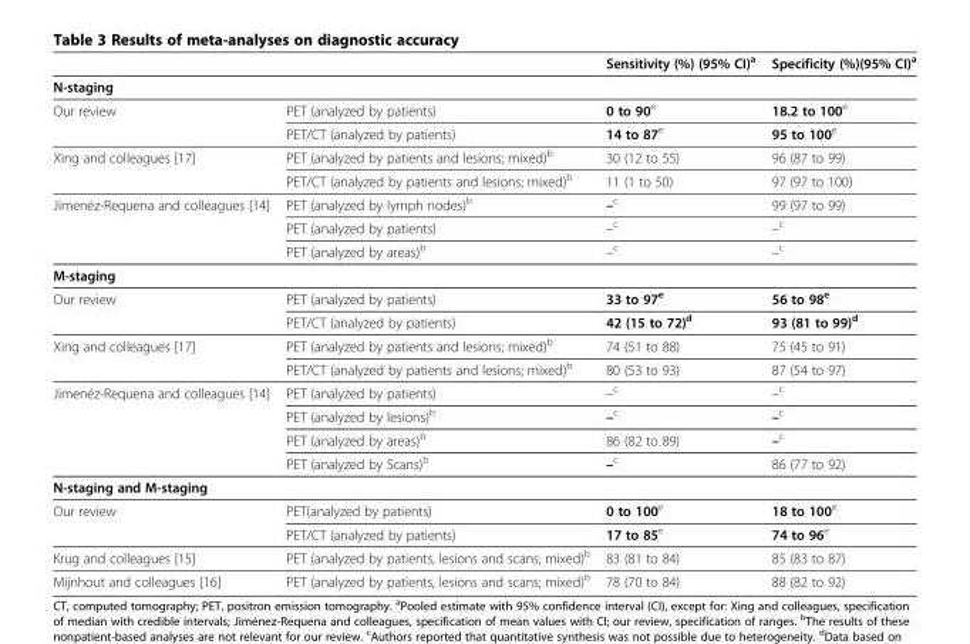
<table><thead><tr><td></td><td></td><td>Sensitivity (%) (95% CI)<sup>a</sup></td><td>Specificity (%)(95% CI)<sup>a</sup></td></tr></thead><tbody><tr><td colspan="4">N-staging</td></tr><tr><td rowspan="2">Our review</td><td>PET (analyzed by patients)</td><td>0 to 90<sup>e</sup></td><td>18.2 to 100<sup>e</sup></td></tr><tr><td>PET/CT (analyzed by patients)</td><td>14 to 87<sup>e</sup></td><td>95 to 100<sup>e</sup></td></tr><tr><td rowspan="2">Xing and colleagues [17]</td><td>PET (analyzed by patients and lesions; mixed)<sup>b</sup></td><td>30 (12 to 55)</td><td>96 (87 to 99)</td></tr><tr><td>PET/CT (analyzed by patients and lesions; mixed)<sup>b</sup></td><td>11 (1 to 50)</td><td>97 (97 to 100)</td></tr><tr><td rowspan="3">Jimenéz-Requena and colleagues [14]</td><td>PET (analyzed by lymph nodes)<sup>b</sup></td><td>–<sup>c</sup></td><td>99 (97 to 99)</td></tr><tr><td>PET (analyzed by patients)</td><td>–<sup>c</sup></td><td>–<sup>c</sup></td></tr><tr><td>PET (analyzed by areas)<sup>b</sup></td><td>–<sup>c</sup></td><td>–<sup>c</sup></td></tr><tr><td colspan="4">M-staging</td></tr><tr><td rowspan="2">Our review</td><td>PET (analyzed by patients)</td><td>33 to 97<sup>e</sup></td><td>56 to 98<sup>e</sup></td></tr><tr><td>PET/CT (analyzed by patients)</td><td>42 (15 to 72)<sup>d</sup></td><td>93 (81 to 99)<sup>d</sup></td></tr><tr><td rowspan="2">Xing and colleagues [17]</td><td>PET (analyzed by patients and lesions; mixed)<sup>b</sup></td><td>74 (51 to 88)</td><td>75 (45 to 91)</td></tr><tr><td>PET/CT (analyzed by patients and lesions; mixed)<sup>b</sup></td><td>80 (53 to 93)</td><td>87 (54 to 97)</td></tr><tr><td rowspan="4">Jimenéz-Requena and colleagues [14]</td><td>PET (analyzed by patients)</td><td>–<sup>c</sup></td><td>–<sup>c</sup></td></tr><tr><td>PET (analyzed by lesions)<sup>b</sup></td><td>–<sup>c</sup></td><td>–<sup>c</sup></td></tr><tr><td>PET (analyzed by areas)<sup>b</sup></td><td>86 (82 to 89)</td><td>–<sup>c</sup></td></tr><tr><td>PET (analyzed by Scans)<sup>b</sup></td><td>–<sup>c</sup></td><td>86 (77 to 92)</td></tr><tr><td colspan="4">N-staging and M-staging</td></tr><tr><td rowspan="2">Our review</td><td>PET(analyzed by patients)</td><td>0 to 100<sup>e</sup></td><td>18 to 100<sup>e</sup></td></tr><tr><td>PET/CT (analyzed by patients)</td><td>17 to 85<sup>e</sup></td><td>74 to 96<sup>e</sup></td></tr><tr><td>Krug and colleagues [15]</td><td>PET (analyzed by patients, lesions and scans; mixed)<sup>b</sup></td><td>83 (81 to 84)</td><td>85 (83 to 87)</td></tr><tr><td>Mijnhout and colleagues [16]</td><td>PET (analyzed by patients, lesions and scans; mixed)<sup>b</sup></td><td>78 (70 to 84)</td><td>88 (82 to 92)</td></tr></tbody></table>